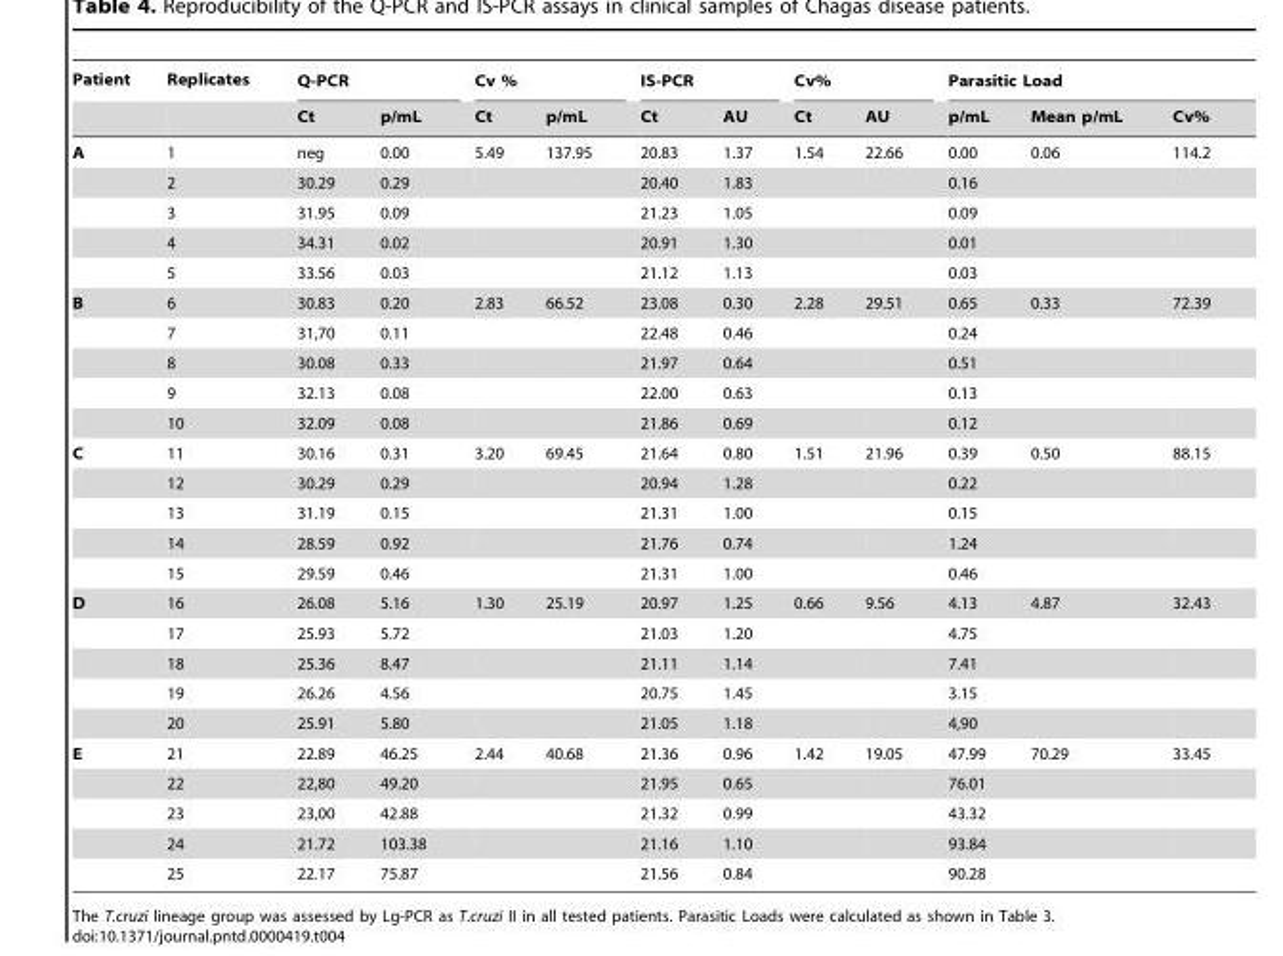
<table><thead><tr><td rowspan="2">Patient</td><td rowspan="2">Replicates</td><td colspan="2">Q-PCR</td><td colspan="2">Cv %</td><td colspan="2">IS-PCR</td><td colspan="2">Cv%</td><td colspan="3">Parasitic Load</td></tr><tr><td>Ct</td><td>p/mL</td><td>Ct</td><td>p/mL</td><td>Ct</td><td>AU</td><td>Ct</td><td>AU</td><td>p/mL</td><td>Mean p/mL</td><td>Cv%</td></tr></thead><tbody><tr><td rowspan="5">A</td><td>1</td><td>neg</td><td>0.00</td><td>5.49</td><td>137.95</td><td>20.83</td><td>1.37</td><td>1.54</td><td>22.66</td><td>0.00</td><td>0.06</td><td>114.2</td></tr><tr><td>2</td><td>30.29</td><td>0.29</td><td></td><td></td><td>20.40</td><td>1.83</td><td></td><td></td><td>0.16</td><td></td><td></td></tr><tr><td>3</td><td>31.95</td><td>0.09</td><td></td><td></td><td>21.23</td><td>1.05</td><td></td><td></td><td>0.09</td><td></td><td></td></tr><tr><td>4</td><td>34.31</td><td>0.02</td><td></td><td></td><td>20.91</td><td>1.30</td><td></td><td></td><td>0.01</td><td></td><td></td></tr><tr><td>5</td><td>33.56</td><td>0.03</td><td></td><td></td><td>21.12</td><td>1.13</td><td></td><td></td><td>0.03</td><td></td><td></td></tr><tr><td rowspan="5">B</td><td>6</td><td>30.83</td><td>0.20</td><td>2.83</td><td>66.52</td><td>23.08</td><td>0.30</td><td>2.28</td><td>29.51</td><td>0.65</td><td>0.33</td><td>72.39</td></tr><tr><td>7</td><td>31,70</td><td>0.11</td><td></td><td></td><td>22.48</td><td>0.46</td><td></td><td></td><td>0.24</td><td></td><td></td></tr><tr><td>8</td><td>30.08</td><td>0.33</td><td></td><td></td><td>21.97</td><td>0.64</td><td></td><td></td><td>0.51</td><td></td><td></td></tr><tr><td>9</td><td>32.13</td><td>0.08</td><td></td><td></td><td>22.00</td><td>0.63</td><td></td><td></td><td>0.13</td><td></td><td></td></tr><tr><td>10</td><td>32.09</td><td>0.08</td><td></td><td></td><td>21.86</td><td>0.69</td><td></td><td></td><td>0.12</td><td></td><td></td></tr><tr><td rowspan="5">C</td><td>11</td><td>30.16</td><td>0.31</td><td>3.20</td><td>69.45</td><td>21.64</td><td>0.80</td><td>1.51</td><td>21.96</td><td>0.39</td><td>0.50</td><td>88.15</td></tr><tr><td>12</td><td>30.29</td><td>0.29</td><td></td><td></td><td>20.94</td><td>1.28</td><td></td><td></td><td>0.22</td><td></td><td></td></tr><tr><td>13</td><td>31.19</td><td>0.15</td><td></td><td></td><td>21.31</td><td>1.00</td><td></td><td></td><td>0.15</td><td></td><td></td></tr><tr><td>14</td><td>28.59</td><td>0.92</td><td></td><td></td><td>21.76</td><td>0.74</td><td></td><td></td><td>1.24</td><td></td><td></td></tr><tr><td>15</td><td>29.59</td><td>0.46</td><td></td><td></td><td>21.31</td><td>1.00</td><td></td><td></td><td>0.46</td><td></td><td></td></tr><tr><td rowspan="5">D</td><td>16</td><td>26.08</td><td>5.16</td><td>1.30</td><td>25.19</td><td>20.97</td><td>1.25</td><td>0.66</td><td>9.56</td><td>4.13</td><td>4.87</td><td>32.43</td></tr><tr><td>17</td><td>25.93</td><td>5.72</td><td></td><td></td><td>21.03</td><td>1.20</td><td></td><td></td><td>4.75</td><td></td><td></td></tr><tr><td>18</td><td>25.36</td><td>8.47</td><td></td><td></td><td>21.11</td><td>1.14</td><td></td><td></td><td>7.41</td><td></td><td></td></tr><tr><td>19</td><td>26.26</td><td>4.56</td><td></td><td></td><td>20.75</td><td>1.45</td><td></td><td></td><td>3.15</td><td></td><td></td></tr><tr><td>20</td><td>25.91</td><td>5.80</td><td></td><td></td><td>21.05</td><td>1.18</td><td></td><td></td><td>4,90</td><td></td><td></td></tr><tr><td rowspan="5">E</td><td>21</td><td>22.89</td><td>46.25</td><td>2.44</td><td>40.68</td><td>21.36</td><td>0.96</td><td>1.42</td><td>19.05</td><td>47.99</td><td>70.29</td><td>33.45</td></tr><tr><td>22</td><td>22,80</td><td>49.20</td><td></td><td></td><td>21.95</td><td>0.65</td><td></td><td></td><td>76.01</td><td></td><td></td></tr><tr><td>23</td><td>23,00</td><td>42.88</td><td></td><td></td><td>21.32</td><td>0.99</td><td></td><td></td><td>43.32</td><td></td><td></td></tr><tr><td>24</td><td>21.72</td><td>103.38</td><td></td><td></td><td>21.16</td><td>1.10</td><td></td><td></td><td>93.84</td><td></td><td></td></tr><tr><td>25</td><td>22.17</td><td>75.87</td><td></td><td></td><td>21.56</td><td>0.84</td><td></td><td></td><td>90.28</td><td></td><td></td></tr></tbody></table>